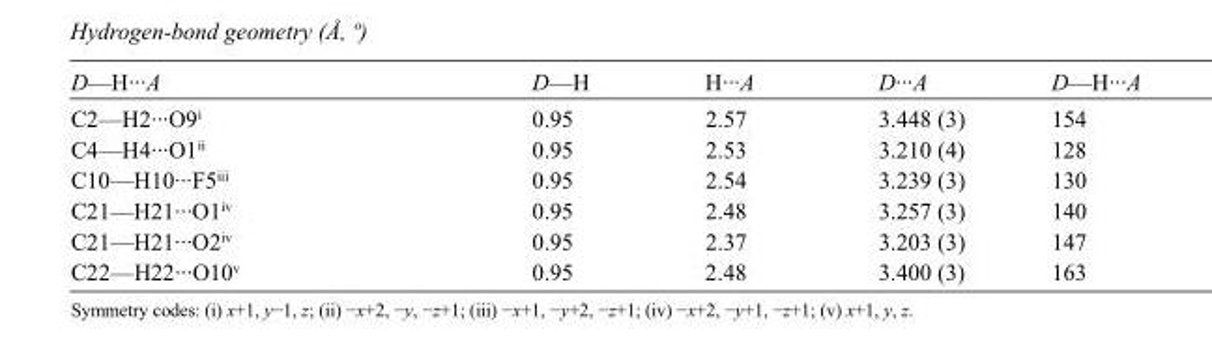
<table><tbody><tr><td>D—H···A</td><td>D—H</td><td>H···A</td><td>D···A</td><td>D—H···A</td></tr><tr><td>C2—H2···O9<sup>i</sup></td><td>0.95</td><td>2.57</td><td>3.448 (3)</td><td>154</td></tr><tr><td>C4—H4···O1<sup>ii</sup></td><td>0.95</td><td>2.53</td><td>3.210 (4)</td><td>128</td></tr><tr><td>C10—H10···F5<sup>iii</sup></td><td>0.95</td><td>2.54</td><td>3.239 (3)</td><td>130</td></tr><tr><td>C21—H21···O1<sup>iv</sup></td><td>0.95</td><td>2.48</td><td>3.257 (3)</td><td>140</td></tr><tr><td>C21—H21···O2<sup>iv</sup></td><td>0.95</td><td>2.37</td><td>3.203 (3)</td><td>147</td></tr><tr><td>C22—H22···O10<sup>v</sup></td><td>0.95</td><td>2.48</td><td>3.400 (3)</td><td>163</td></tr></tbody></table>